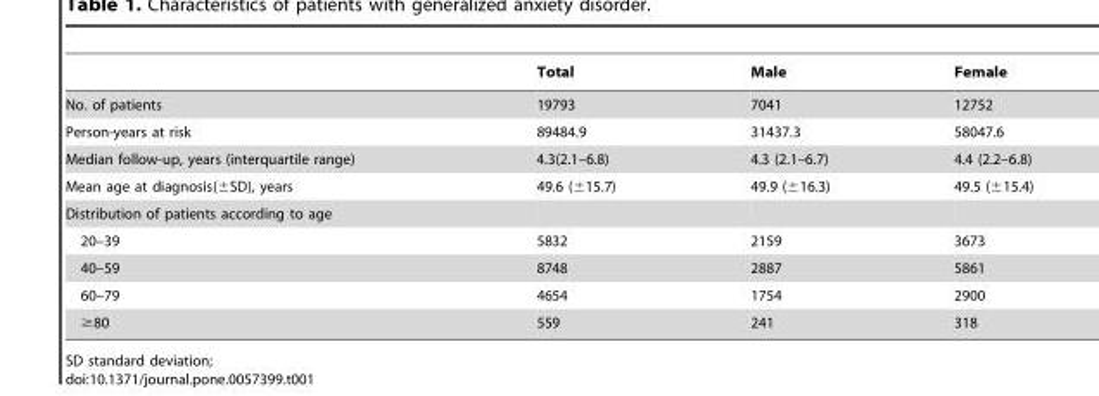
<table><thead><tr><td></td><td>Total</td><td>Male</td><td>Female</td></tr></thead><tbody><tr><td>No. of patients</td><td>19793</td><td>7041</td><td>12752</td></tr><tr><td>Person-years at risk</td><td>89484.9</td><td>31437.3</td><td>58047.6</td></tr><tr><td>Median follow-up, years (interquartile range)</td><td>4.3(2.1–6.8)</td><td>4.3 (2.1–6.7)</td><td>4.4 (2.2–6.8)</td></tr><tr><td>Mean age at diagnosis(±SD), years</td><td>49.6 (±15.7)</td><td>49.9 (±16.3)</td><td>49.5 (±15.4)</td></tr><tr><td colspan="4">Distribution of patients according to age</td></tr><tr><td>20–39</td><td>5832</td><td>2159</td><td>3673</td></tr><tr><td>40–59</td><td>8748</td><td>2887</td><td>5861</td></tr><tr><td>60–79</td><td>4654</td><td>1754</td><td>2900</td></tr><tr><td>≥80</td><td>559</td><td>241</td><td>318</td></tr></tbody></table>